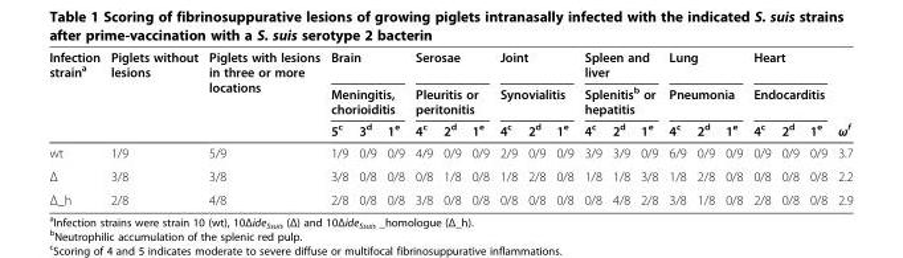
<table><thead><tr><td rowspan="3">Infection strain<sup>a</sup></td><td rowspan="3">Piglets without lesions</td><td rowspan="3">Piglets with lesions in three or more locations</td><td rowspan="2" colspan="3">Brain Meningitis, chorioiditis</td><td rowspan="2" colspan="3">Serosae Pleuritis or peritonitis</td><td rowspan="2" colspan="3">Joint Synovialitis</td><td rowspan="2" colspan="3">Spleen and liver Splenitis<sup>b</sup> or hepatitis</td><td rowspan="2" colspan="3">Lung Pneumonia</td><td rowspan="2" colspan="3">Heart Endocarditis</td><td rowspan="3">ω<sup>f</sup></td></tr><tr></tr><tr><td>5<sup>c</sup></td><td>3<sup>d</sup></td><td>1<sup>e</sup></td><td>4<sup>c</sup></td><td>2<sup>d</sup></td><td>1<sup>e</sup></td><td>4<sup>c</sup></td><td>2<sup>d</sup></td><td>1<sup>e</sup></td><td>4<sup>c</sup></td><td>2<sup>d</sup></td><td>1<sup>e</sup></td><td>4<sup>c</sup></td><td>2<sup>d</sup></td><td>1<sup>e</sup></td><td>4<sup>c</sup></td><td>2<sup>d</sup></td><td>1<sup>e</sup></td></tr></thead><tbody><tr><td>wt</td><td>1/9</td><td>5/9</td><td>1/9</td><td>0/9</td><td>0/9</td><td>4/9</td><td>0/9</td><td>0/9</td><td>2/9</td><td>0/9</td><td>0/9</td><td>3/9</td><td>3/9</td><td>0/9</td><td>6/9</td><td>0/9</td><td>0/9</td><td>0/9</td><td>0/9</td><td>0/9</td><td>3.7</td></tr><tr><td>Δ</td><td>3/8</td><td>3/8</td><td>3/8</td><td>0/8</td><td>0/8</td><td>0/8</td><td>1/8</td><td>0/8</td><td>1/8</td><td>2/8</td><td>0/8</td><td>1/8</td><td>1/8</td><td>3/8</td><td>1/8</td><td>2/8</td><td>0/8</td><td>0/8</td><td>0/8</td><td>0/8</td><td>2.2</td></tr><tr><td>Δ_h</td><td>2/8</td><td>4/8</td><td>2/8</td><td>0/8</td><td>0/8</td><td>3/8</td><td>0/8</td><td>0/8</td><td>0/8</td><td>0/8</td><td>0/8</td><td>0/8</td><td>4/8</td><td>2/8</td><td>3/8</td><td>1/8</td><td>0/8</td><td>2/8</td><td>0/8</td><td>0/8</td><td>2.9</td></tr></tbody></table>